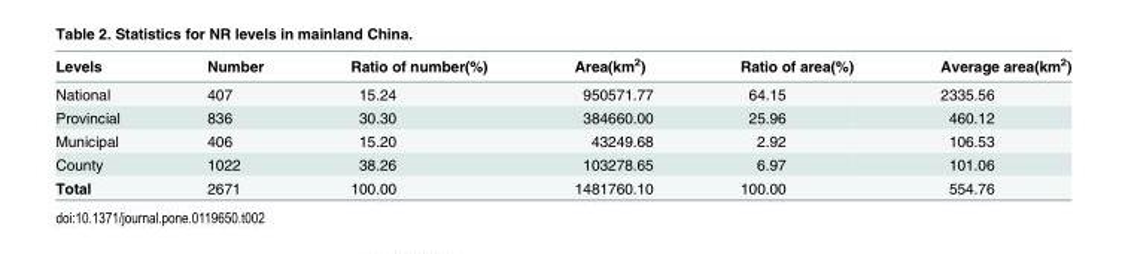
<table><thead><tr><td>Levels</td><td>Number</td><td>Ratio of number(%)</td><td>Area(km<sup>2</sup>)</td><td>Ratio of area(%)</td><td>Average area(km<sup>2</sup>)</td></tr></thead><tbody><tr><td>National</td><td>407</td><td>15.24</td><td>950571.77</td><td>64.15</td><td>2335.56</td></tr><tr><td>Provincial</td><td>836</td><td>30.30</td><td>384660.00</td><td>25.96</td><td>460.12</td></tr><tr><td>Municipal</td><td>406</td><td>15.20</td><td>43249.68</td><td>2.92</td><td>106.53</td></tr><tr><td>County</td><td>1022</td><td>38.26</td><td>103278.65</td><td>6.97</td><td>101.06</td></tr><tr><td>Total</td><td>2671</td><td>100.00</td><td>1481760.10</td><td>100.00</td><td>554.76</td></tr></tbody></table>